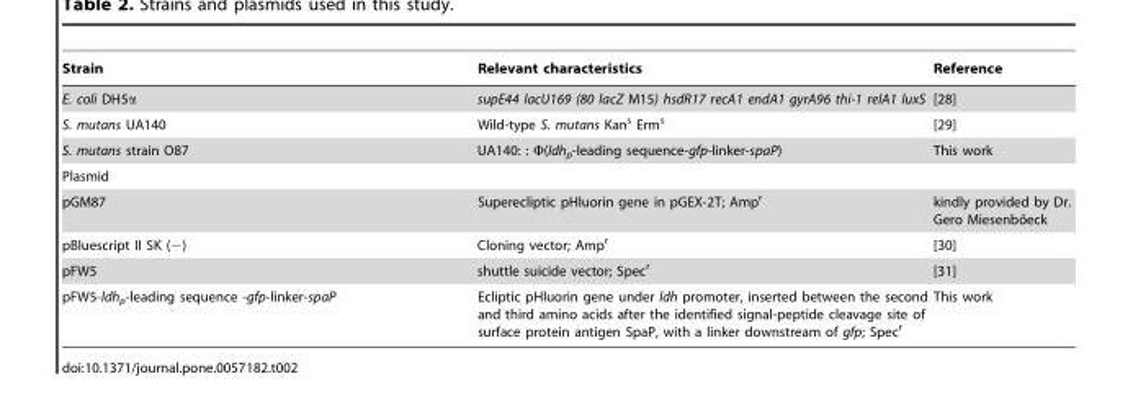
<table><thead><tr><td>Strain</td><td>Relevant characteristics</td><td>Reference</td></tr></thead><tbody><tr><td>E. coli DH5α</td><td>supE44 lacU169 (80 lacZ M15) hsdR17 recA1 endA1 gyrA96 thi-1 relA1 luxS</td><td>[28]</td></tr><tr><td>S. mutans UA140</td><td>Wild-type S. mutans Kan<sup>s</sup> Erm<sup>s</sup></td><td>[29]</td></tr><tr><td>S. mutans strain O87</td><td>UA140: : Φ(ldh<sub>p</sub>-leading sequence-gfp-linker-spaP)</td><td>This work</td></tr><tr><td colspan="3">Plasmid</td></tr><tr><td>pGM87</td><td>Superecliptic pHluorin gene in pGEX-2T; Amp<sup>r</sup></td><td>kindly provided by Dr. Gero Miesenbo˝eck</td></tr><tr><td>pBluescript II SK (−)</td><td>Cloning vector; Amp<sup>r</sup></td><td>[30]</td></tr><tr><td>pFW5</td><td>shuttle suicide vector; Spec<sup>r</sup></td><td>[31]</td></tr><tr><td>pFW5-ldh<sub>p</sub>-leading sequence -gfp-linker-spaP</td><td>Ecliptic pHluorin gene under ldh promoter, inserted between the second and third amino acids after the identified signal-peptide cleavage site of surface protein antigen SpaP, with a linker downstream of gfp; Spec<sup>r</sup></td><td>This work</td></tr></tbody></table>